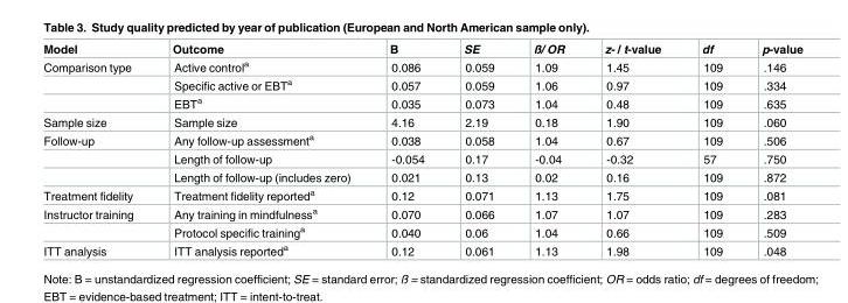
<table><thead><tr><td>Model</td><td>Outcome</td><td>B</td><td>SE</td><td>ß/ OR</td><td>z- / t-value</td><td>df</td><td>p-value</td></tr></thead><tbody><tr><td rowspan="3">Comparison type</td><td>Active control<sup>a</sup></td><td>0.086</td><td>0.059</td><td>1.09</td><td>1.45</td><td>109</td><td>.146</td></tr><tr><td>Specific active or EBT<sup>a</sup></td><td>0.057</td><td>0.059</td><td>1.06</td><td>0.97</td><td>109</td><td>.334</td></tr><tr><td>EBT<sup>a</sup></td><td>0.035</td><td>0.073</td><td>1.04</td><td>0.48</td><td>109</td><td>.635</td></tr><tr><td>Sample size</td><td>Sample size</td><td>4.16</td><td>2.19</td><td>0.18</td><td>1.90</td><td>109</td><td>.060</td></tr><tr><td rowspan="3">Follow-up</td><td>Any follow-up assessment<sup>a</sup></td><td>0.038</td><td>0.058</td><td>1.04</td><td>0.67</td><td>109</td><td>.506</td></tr><tr><td>Length of follow-up</td><td>-0.054</td><td>0.17</td><td>-0.04</td><td>-0.32</td><td>57</td><td>.750</td></tr><tr><td>Length of follow-up (includes zero)</td><td>0.021</td><td>0.13</td><td>0.02</td><td>0.16</td><td>109</td><td>.872</td></tr><tr><td>Treatment fidelity</td><td>Treatment fidelity reported<sup>a</sup></td><td>0.12</td><td>0.071</td><td>1.13</td><td>1.75</td><td>109</td><td>.081</td></tr><tr><td rowspan="2">Instructor training</td><td>Any training in mindfulness<sup>a</sup></td><td>0.070</td><td>0.066</td><td>1.07</td><td>1.07</td><td>109</td><td>.283</td></tr><tr><td>Protocol specific training<sup>a</sup></td><td>0.040</td><td>0.06</td><td>1.04</td><td>0.66</td><td>109</td><td>.509</td></tr><tr><td>ITT analysis</td><td>ITT analysis reported<sup>a</sup></td><td>0.12</td><td>0.061</td><td>1.13</td><td>1.98</td><td>109</td><td>.048</td></tr></tbody></table>